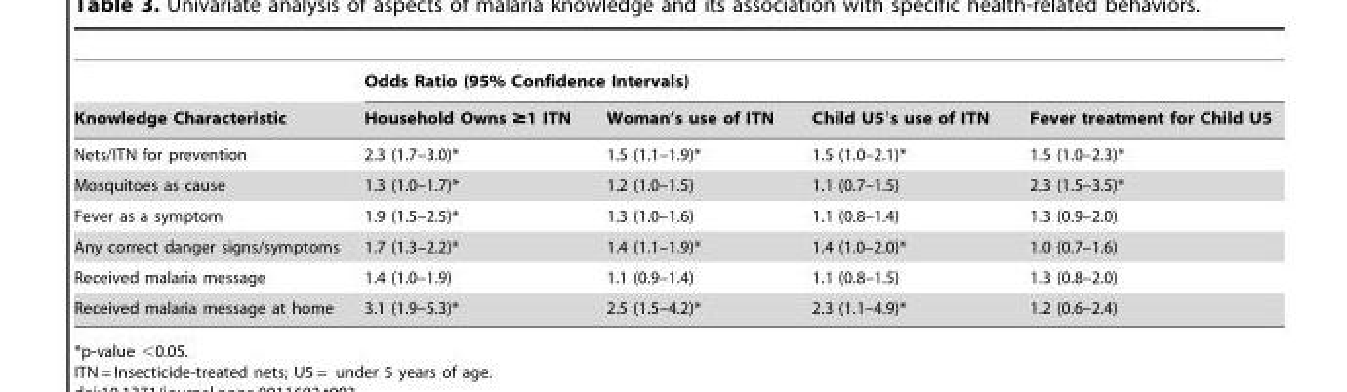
<table><thead><tr><td rowspan="2">Knowledge Characteristic</td><td colspan="4">Odds Ratio (95% Confidence Intervals)</td></tr><tr><td>Household Owns ≥1 ITN</td><td>Woman’s use of ITN</td><td>Child U5′s use of ITN</td><td>Fever treatment for Child U5</td></tr></thead><tbody><tr><td>Nets/ITN for prevention</td><td>2.3 (1.7–3.0)*</td><td>1.5 (1.1–1.9)*</td><td>1.5 (1.0–2.1)*</td><td>1.5 (1.0–2.3)*</td></tr><tr><td>Mosquitoes as cause</td><td>1.3 (1.0–1.7)*</td><td>1.2 (1.0–1.5)</td><td>1.1 (0.7–1.5)</td><td>2.3 (1.5–3.5)*</td></tr><tr><td>Fever as a symptom</td><td>1.9 (1.5–2.5)*</td><td>1.3 (1.0–1.6)</td><td>1.1 (0.8–1.4)</td><td>1.3 (0.9–2.0)</td></tr><tr><td>Any correct danger signs/symptoms</td><td>1.7 (1.3–2.2)*</td><td>1.4 (1.1–1.9)*</td><td>1.4 (1.0–2.0)*</td><td>1.0 (0.7–1.6)</td></tr><tr><td>Received malaria message</td><td>1.4 (1.0–1.9)</td><td>1.1 (0.9–1.4)</td><td>1.1 (0.8–1.5)</td><td>1.3 (0.8–2.0)</td></tr><tr><td>Received malaria message at home</td><td>3.1 (1.9–5.3)*</td><td>2.5 (1.5–4.2)*</td><td>2.3 (1.1–4.9)*</td><td>1.2 (0.6–2.4)</td></tr></tbody></table>